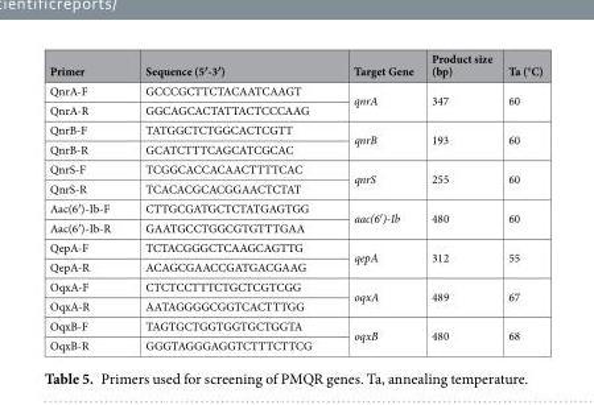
<table><thead><tr><td>Primer</td><td>Sequence (5′-3′)</td><td>Target Gene</td><td>Product size (bp)</td><td>Ta (°C)</td></tr></thead><tbody><tr><td>QnrA-F</td><td>GCCCGCTTCTACAATCAAGT</td><td rowspan="2">qnrA</td><td rowspan="2">347</td><td rowspan="2">60</td></tr><tr><td>QnrA-R</td><td>GGCAGCACTATTACTCCCAAG</td></tr><tr><td>QnrB-F</td><td>TATGGCTCTGGCACTCGTT</td><td rowspan="2">qnrB</td><td rowspan="2">193</td><td rowspan="2">60</td></tr><tr><td>QnrB-R</td><td>GCATCTTTCAGCATCGCAC</td></tr><tr><td>QnrS-F</td><td>TCGGCACCACAACTTTTCAC</td><td rowspan="2">qnrS</td><td rowspan="2">255</td><td rowspan="2">60</td></tr><tr><td>QnrS-R</td><td>TCACACGCACGGAACTCTAT</td></tr><tr><td>Aac(6′)-Ib-F</td><td>CTTGCGATGCTCTATGAGTGG</td><td rowspan="2">aac(6′)-Ib</td><td rowspan="2">480</td><td rowspan="2">60</td></tr><tr><td>Aac(6′)-Ib-R</td><td>GAATGCCTGGCGTGTTTGAA</td></tr><tr><td>QepA-F</td><td>TCTACGGGCTCAAGCAGTTG</td><td rowspan="2">qepA</td><td rowspan="2">312</td><td rowspan="2">55</td></tr><tr><td>QepA-R</td><td>ACAGCGAACCGATGACGAAG</td></tr><tr><td>OqxA-F</td><td>CTCTCCTTTCTGCTCGTCGG</td><td rowspan="2">oqxA</td><td rowspan="2">489</td><td rowspan="2">67</td></tr><tr><td>OqxA-R</td><td>AATAGGGGCGGTCACTTTGG</td></tr><tr><td>OqxB-F</td><td>TAGTGCTGGTGGTGCTGGTA</td><td rowspan="2">oqxB</td><td rowspan="2">480</td><td rowspan="2">68</td></tr><tr><td>OqxB-R</td><td>GGGTAGGGAGGTCTTTCTTCG</td></tr></tbody></table>